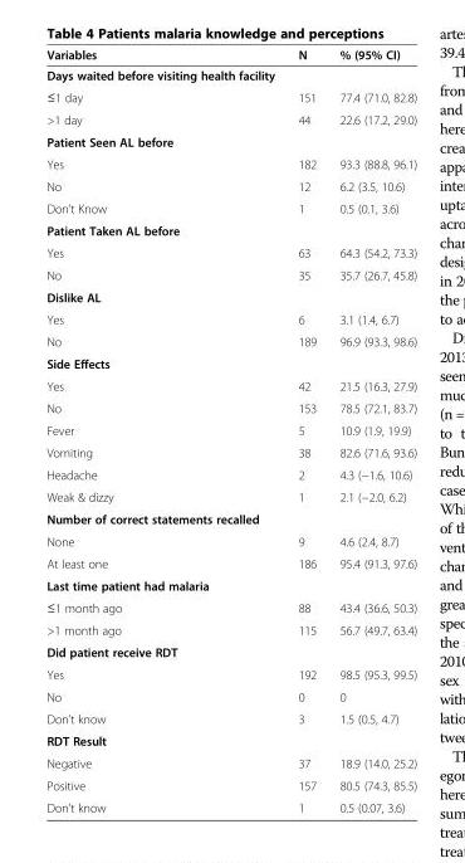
<table><thead><tr><td>Variables</td><td>N</td><td>% (95% CI)</td></tr></thead><tbody><tr><td colspan="3">Days waited before visiting health facility</td></tr><tr><td>≤1 day</td><td>151</td><td>77.4 (71.0, 82.8)</td></tr><tr><td>&gt;1 day</td><td>44</td><td>22.6 (17.2, 29.0)</td></tr><tr><td colspan="3">Patient Seen AL before</td></tr><tr><td>Yes</td><td>182</td><td>93.3 (88.8, 96.1)</td></tr><tr><td>No</td><td>12</td><td>6.2 (3.5, 10.6)</td></tr><tr><td>Don’t Know</td><td>1</td><td>0.5 (0.1, 3.6)</td></tr><tr><td colspan="3">Patient Taken AL before</td></tr><tr><td>Yes</td><td>63</td><td>64.3 (54.2, 73.3)</td></tr><tr><td>No</td><td>35</td><td>35.7 (26.7, 45.8)</td></tr><tr><td colspan="3">Dislike AL</td></tr><tr><td>Yes</td><td>6</td><td>3.1 (1.4, 6.7)</td></tr><tr><td>No</td><td>189</td><td>96.9 (93.3, 98.6)</td></tr><tr><td colspan="3">Side Effects</td></tr><tr><td>Yes</td><td>42</td><td>21.5 (16.3, 27.9)</td></tr><tr><td>No</td><td>153</td><td>78.5 (72.1, 83.7)</td></tr><tr><td>Fever</td><td>5</td><td>10.9 (1.9, 19.9)</td></tr><tr><td>Vomiting</td><td>38</td><td>82.6 (71.6, 93.6)</td></tr><tr><td>Headache</td><td>2</td><td>4.3 (−1.6, 10.6)</td></tr><tr><td>Weak &amp; dizzy</td><td>1</td><td>2.1 (−2.0, 6.2)</td></tr><tr><td colspan="3">Number of correct statements recalled</td></tr><tr><td>None</td><td>9</td><td>4.6 (2.4, 8.7)</td></tr><tr><td>At least one</td><td>186</td><td>95.4 (91.3, 97.6)</td></tr><tr><td colspan="3">Last time patient had malaria</td></tr><tr><td>≤1 month ago</td><td>88</td><td>43.4 (36.6, 50.3)</td></tr><tr><td>&gt;1 month ago</td><td>115</td><td>56.7 (49.7, 63.4)</td></tr><tr><td colspan="3">Did patient receive RDT</td></tr><tr><td>Yes</td><td>192</td><td>98.5 (95.3, 99.5)</td></tr><tr><td>No</td><td>0</td><td>0</td></tr><tr><td>Don’t know</td><td>3</td><td>1.5 (0.5, 4.7)</td></tr><tr><td colspan="3">RDT Result</td></tr><tr><td>Negative</td><td>37</td><td>18.9 (14.0, 25.2)</td></tr><tr><td>Positive</td><td>157</td><td>80.5 (74.3, 85.5)</td></tr><tr><td>Don’t know</td><td>1</td><td>0.5 (0.07, 3.6)</td></tr></tbody></table>